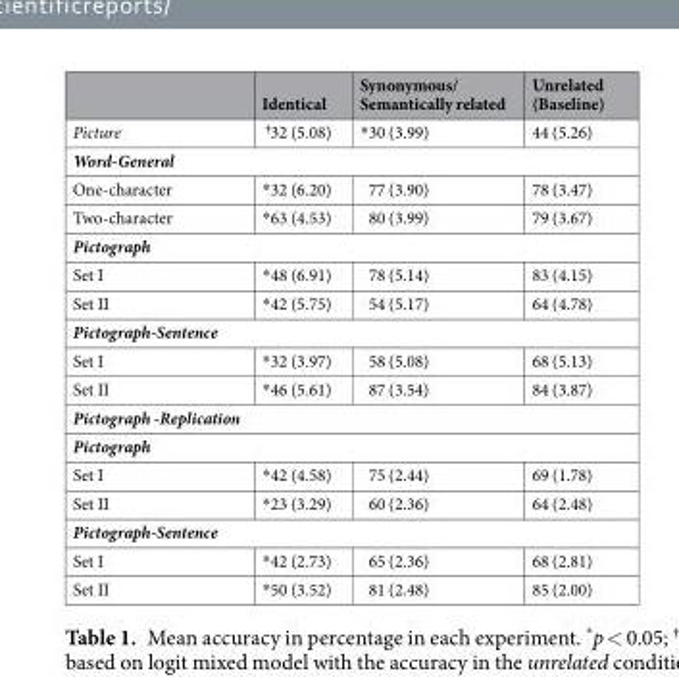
<table><thead><tr><td></td><td>Identical</td><td>Synonymous/ Semantically related</td><td>Unrelated (Baseline)</td></tr></thead><tbody><tr><td>Picture</td><td><sup>†</sup>32 (5.08)</td><td>*30 (3.99)</td><td>44 (5.26)</td></tr><tr><td colspan="4">Word-General</td></tr><tr><td>One-character</td><td>*32 (6.20)</td><td>77 (3.90)</td><td>78 (3.47)</td></tr><tr><td>Two-character</td><td>*63 (4.53)</td><td>80 (3.99)</td><td>79 (3.67)</td></tr><tr><td colspan="4">Pictograph</td></tr><tr><td>Set I</td><td>*48 (6.91)</td><td>78 (5.14)</td><td>83 (4.15)</td></tr><tr><td>Set II</td><td>*42 (5.75)</td><td>54 (5.17)</td><td>64 (4.78)</td></tr><tr><td colspan="4">Pictograph-Sentence</td></tr><tr><td>Set I</td><td>*32 (3.97)</td><td>58 (5.08)</td><td>68 (5.13)</td></tr><tr><td>Set II</td><td>*46 (5.61)</td><td>87 (3.54)</td><td>84 (3.87)</td></tr><tr><td colspan="4">Pictograph -Replication</td></tr><tr><td colspan="4">Pictograph</td></tr><tr><td>Set I</td><td>*42 (4.58)</td><td>75 (2.44)</td><td>69 (1.78)</td></tr><tr><td>Set II</td><td>*23 (3.29)</td><td>60 (2.36)</td><td>64 (2.48)</td></tr><tr><td colspan="4">Pictograph-Sentence</td></tr><tr><td>Set I</td><td>*42 (2.73)</td><td>65 (2.36)</td><td>68 (2.81)</td></tr><tr><td>Set II</td><td>*50 (3.52)</td><td>81 (2.48)</td><td>85 (2.00)</td></tr></tbody></table>